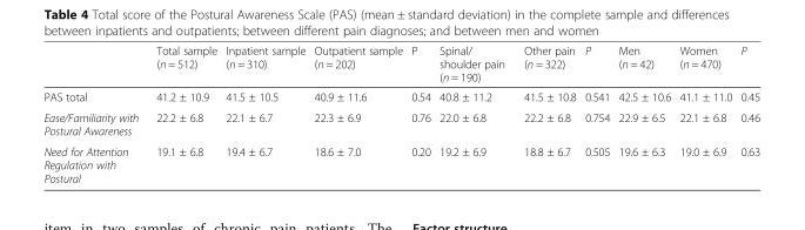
<table><thead><tr><td></td><td>Total sample (n = 512)</td><td>Inpatient sample (n = 310)</td><td>Outpatient sample (n = 202)</td><td>P</td><td>Spinal/ shoulder pain (n = 190)</td><td>Other pain (n = 322)</td><td>P</td><td>Men (n = 42)</td><td>Women (n = 470)</td><td>P</td></tr></thead><tbody><tr><td>PAS total</td><td>41.2 ± 10.9</td><td>41.5 ± 10.5</td><td>40.9 ± 11.6</td><td>0.54</td><td>40.8 ± 11.2</td><td>41.5 ± 10.8</td><td>0.541</td><td>42.5 ± 10.6</td><td>41.1 ± 11.0</td><td>0.45</td></tr><tr><td>Ease/Familiarity with Postural Awareness</td><td>22.2 ± 6.8</td><td>22.1 ± 6.7</td><td>22.3 ± 6.9</td><td>0.76</td><td>22.0 ± 6.8</td><td>22.2 ± 6.8</td><td>0.754</td><td>22.9 ± 6.5</td><td>22.1 ± 6.8</td><td>0.46</td></tr><tr><td>Need for Attention Regulation with Postural</td><td>19.1 ± 6.8</td><td>19.4 ± 6.7</td><td>18.6 ± 7.0</td><td>0.20</td><td>19.2 ± 6.9</td><td>18.8 ± 6.7</td><td>0.505</td><td>19.6 ± 6.3</td><td>19.0 ± 6.9</td><td>0.63</td></tr></tbody></table>